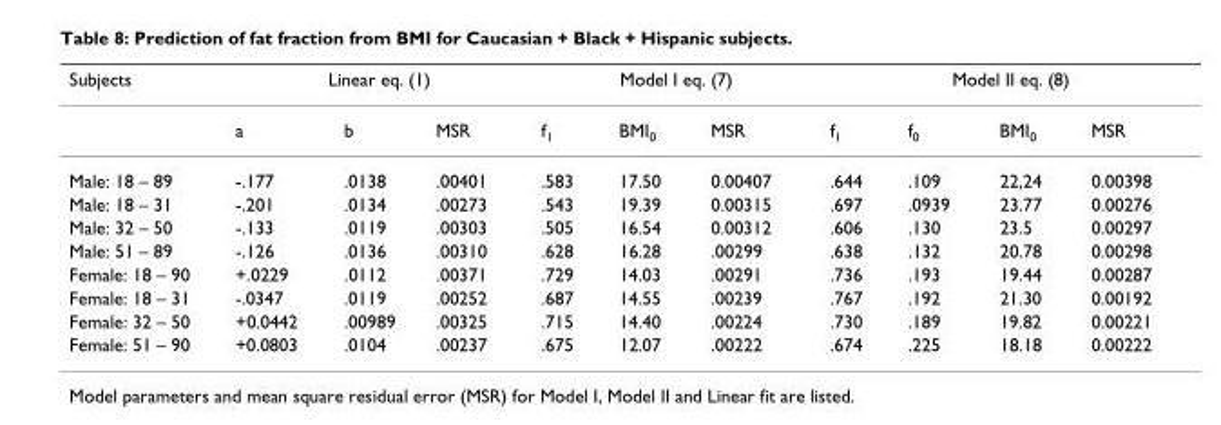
<table><thead><tr><td rowspan="2">Subjects</td><td colspan="3">Linear eq. (1)</td><td colspan="3">Model I eq. (7)</td><td colspan="4">Model II eq. (8)</td></tr><tr><td>a</td><td>b</td><td>MSR</td><td>f<sub>1</sub></td><td>BMI<sub>0</sub></td><td>MSR</td><td>f<sub>1</sub></td><td>f<sub>0</sub></td><td>BMI<sub>0</sub></td><td>MSR</td></tr></thead><tbody><tr><td>Male: 18 – 89</td><td>-.177</td><td>.0138</td><td>.00401</td><td>.583</td><td>17.50</td><td>0.00407</td><td>.644</td><td>.109</td><td>22,24</td><td>0.00398</td></tr><tr><td>Male: 18 – 31</td><td>-.201</td><td>.0134</td><td>.00273</td><td>.543</td><td>19.39</td><td>0.00315</td><td>.697</td><td>.0939</td><td>23.77</td><td>0.00276</td></tr><tr><td>Male: 32 – 50</td><td>-.133</td><td>.0119</td><td>.00303</td><td>.505</td><td>16.54</td><td>0.00312</td><td>.606</td><td>.130</td><td>23.5</td><td>0.00297</td></tr><tr><td>Male: 51 – 89</td><td>-.126</td><td>.0136</td><td>.00310</td><td>.628</td><td>16.28</td><td>.00299</td><td>.638</td><td>.132</td><td>20.78</td><td>0.00298</td></tr><tr><td>Female: 18 – 90</td><td>+.0229</td><td>.0112</td><td>.00371</td><td>.729</td><td>14.03</td><td>.00291</td><td>.736</td><td>.193</td><td>19.44</td><td>0.00287</td></tr><tr><td>Female: 18 – 31</td><td>-.0347</td><td>.0119</td><td>.00252</td><td>.687</td><td>14.55</td><td>.00239</td><td>.767</td><td>.192</td><td>21.30</td><td>0.00192</td></tr><tr><td>Female: 32 – 50</td><td>+0.0442</td><td>.00989</td><td>.00325</td><td>.715</td><td>14.40</td><td>.00224</td><td>.730</td><td>.189</td><td>19.82</td><td>0.00221</td></tr><tr><td>Female: 51 – 90</td><td>+0.0803</td><td>.0104</td><td>.00237</td><td>.675</td><td>12.07</td><td>.00222</td><td>.674</td><td>.225</td><td>18.18</td><td>0.00222</td></tr></tbody></table>